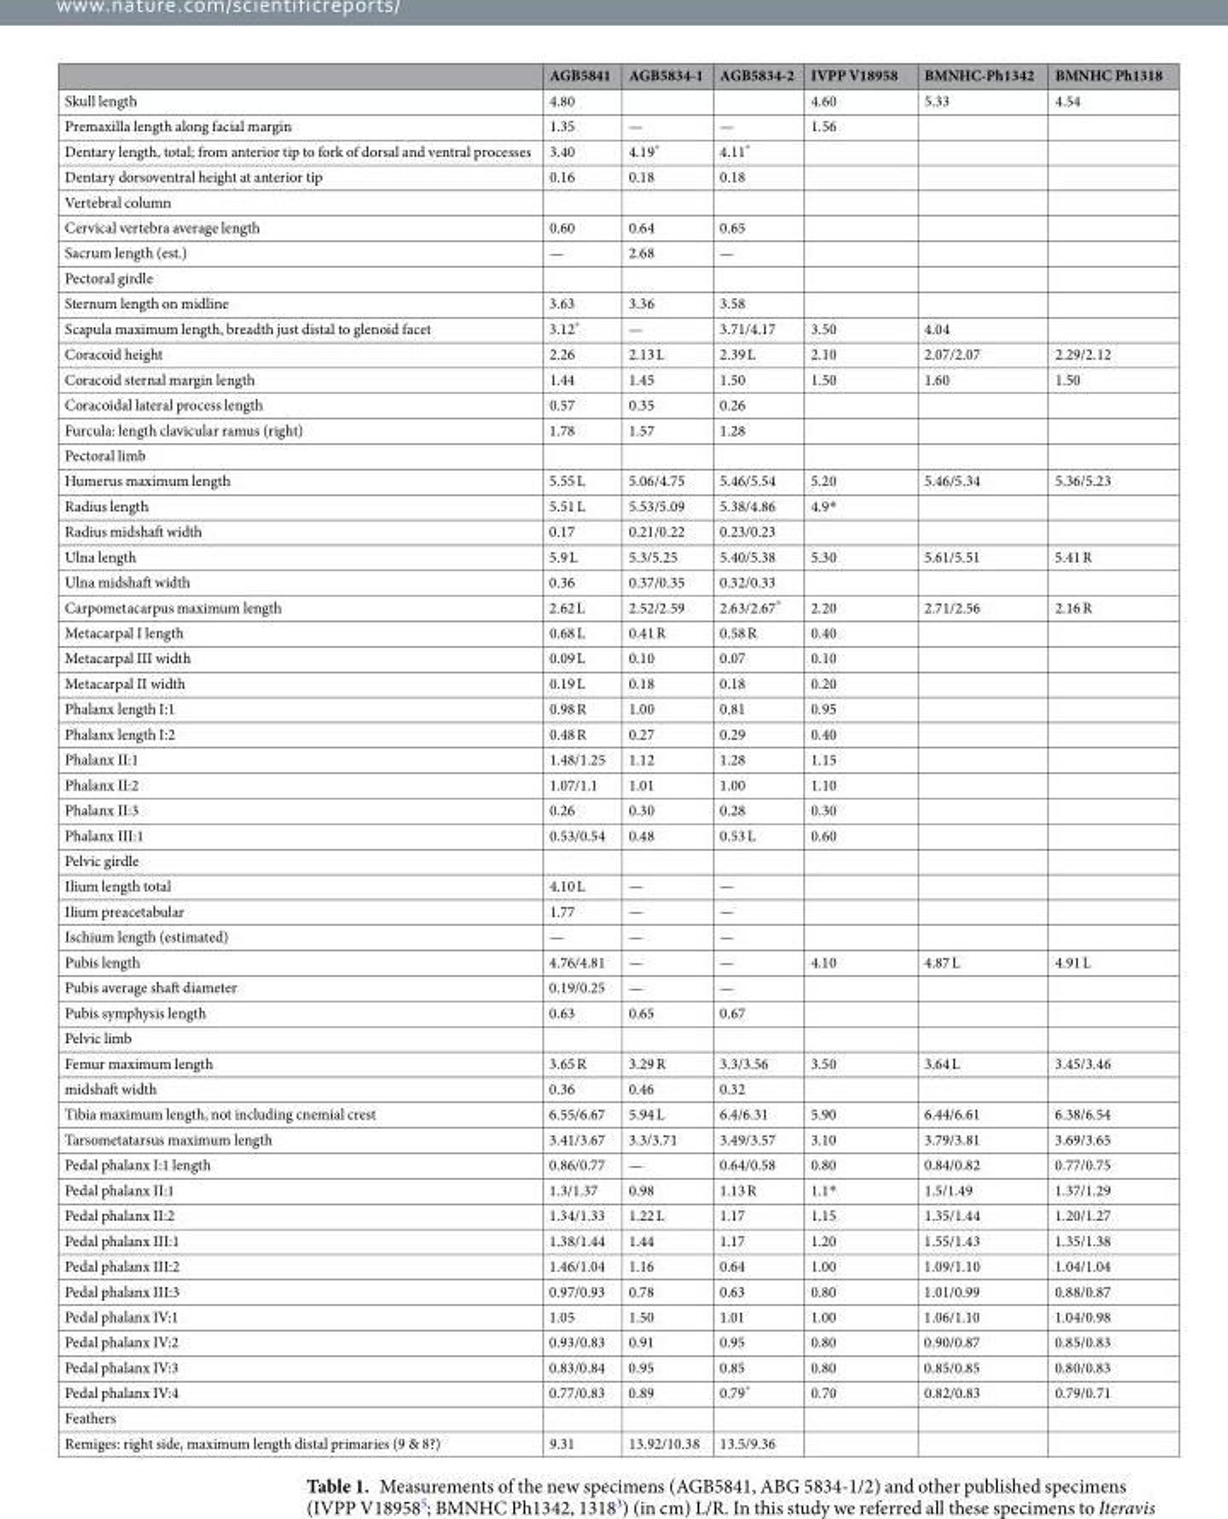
<table><thead><tr><td></td><td>AGB5841</td><td>AGB5834-1</td><td>AGB5834-2</td><td>IVPP V18958</td><td>BMNHC-Ph1342</td><td>BMNHC Ph1318</td></tr></thead><tbody><tr><td>Skull length</td><td>4.80</td><td></td><td></td><td>4.60</td><td>5.33</td><td>4.54</td></tr><tr><td>Premaxilla length along facial margin</td><td>1.35</td><td>—</td><td>—</td><td>1.56</td><td></td><td></td></tr><tr><td>Dentary length, total; from anterior tip to fork of dorsal and ventral processes</td><td>3.40</td><td>4.19*</td><td>4.11*</td><td></td><td></td><td></td></tr><tr><td>Dentary dorsoventral height at anterior tip</td><td>0.16</td><td>0.18</td><td>0.18</td><td></td><td></td><td></td></tr><tr><td colspan="7">Vertebral column</td></tr><tr><td>Cervical vertebra average length</td><td>0.60</td><td>0.64</td><td>0.65</td><td></td><td></td><td></td></tr><tr><td>Sacrum length (est.)</td><td>—</td><td>2.68</td><td>—</td><td></td><td></td><td></td></tr><tr><td colspan="7">Pectoral girdle</td></tr><tr><td>Sternum length on midline</td><td>3.63</td><td>3.36</td><td>3.58</td><td></td><td></td><td></td></tr><tr><td>Scapula maximum length, breadth just distal to glenoid facet</td><td>3.12*</td><td>—</td><td>3.71/4.17</td><td>3.50</td><td>4.04</td><td></td></tr><tr><td>Coracoid height</td><td>2.26</td><td>2.13 L</td><td>2.39 L</td><td>2.10</td><td>2.07/2.07</td><td>2.29/2.12</td></tr><tr><td>Coracoid sternal margin length</td><td>1.44</td><td>1.45</td><td>1.50</td><td>1.50</td><td>1.60</td><td>1.50</td></tr><tr><td>Coracoidal lateral process length</td><td>0.57</td><td>0.35</td><td>0.26</td><td></td><td></td><td></td></tr><tr><td>Furcula: length clavicular ramus (right)</td><td>1.78</td><td>1.57</td><td>1.28</td><td></td><td></td><td></td></tr><tr><td colspan="7">Pectoral limb</td></tr><tr><td>Humerus maximum length</td><td>5.55 L</td><td>5.06/4.75</td><td>5.46/5.54</td><td>5.20</td><td>5.46/5.34</td><td>5.36/5.23</td></tr><tr><td>Radius length</td><td>5.51 L</td><td>5.53/5.09</td><td>5.38/4.86</td><td>4.9*</td><td></td><td></td></tr><tr><td>Radius midshaft width</td><td>0.17</td><td>0.21/0.22</td><td>0.23/0.23</td><td></td><td></td><td></td></tr><tr><td>Ulna length</td><td>5.9 L</td><td>5.3/5.25</td><td>5.40/5.38</td><td>5.30</td><td>5.61/5.51</td><td>5.41 R</td></tr><tr><td>Ulna midshaft width</td><td>0.36</td><td>0.37/0.35</td><td>0.32/0.33</td><td></td><td></td><td></td></tr><tr><td>Carpometacarpus maximum length</td><td>2.62 L</td><td>2.52/2.59</td><td>2.63/2.67*</td><td>2.20</td><td>2.71/2.56</td><td>2.16 R</td></tr><tr><td>Metacarpal I length</td><td>0.68 L</td><td>0.41 R</td><td>0.58 R</td><td>0.40</td><td></td><td></td></tr><tr><td>Metacarpal III width</td><td>0.09 L</td><td>0.10</td><td>0.07</td><td>0.10</td><td></td><td></td></tr><tr><td>Metacarpal II width</td><td>0.19 L</td><td>0.18</td><td>0.18</td><td>0.20</td><td></td><td></td></tr><tr><td>Phalanx length I:1</td><td>0.98 R</td><td>1.00</td><td>0.81</td><td>0.95</td><td></td><td></td></tr><tr><td>Phalanx length I:2</td><td>0.48 R</td><td>0.27</td><td>0.29</td><td>0.40</td><td></td><td></td></tr><tr><td>Phalanx II:1</td><td>1.48/1.25</td><td>1.12</td><td>1.28</td><td>1.15</td><td></td><td></td></tr><tr><td>Phalanx II:2</td><td>1.07/1.1</td><td>1.01</td><td>1.00</td><td>1.10</td><td></td><td></td></tr><tr><td>Phalanx II:3</td><td>0.26</td><td>0.30</td><td>0.28</td><td>0.30</td><td></td><td></td></tr><tr><td>Phalanx III:1</td><td>0.53/0.54</td><td>0.48</td><td>0.53 L</td><td>0.60</td><td></td><td></td></tr><tr><td colspan="7">Pelvic girdle</td></tr><tr><td>Ilium length total</td><td>4.10 L</td><td>—</td><td>—</td><td></td><td></td><td></td></tr><tr><td>Ilium preacetabular</td><td>1.77</td><td>—</td><td>—</td><td></td><td></td><td></td></tr><tr><td>Ischium length (estimated)</td><td>—</td><td>—</td><td>—</td><td></td><td></td><td></td></tr><tr><td>Pubis length</td><td>4.76/4.81</td><td>—</td><td>—</td><td>4.10</td><td>4.87 L</td><td>4.91 L</td></tr><tr><td>Pubis average shaft diameter</td><td>0.19/0.25</td><td>—</td><td>—</td><td></td><td></td><td></td></tr><tr><td>Pubis symphysis length</td><td>0.63</td><td>0.65</td><td>0.67</td><td></td><td></td><td></td></tr><tr><td colspan="7">Pelvic limb</td></tr><tr><td>Femur maximum length</td><td>3.65 R</td><td>3.29 R</td><td>3.3/3.56</td><td>3.50</td><td>3.64 L</td><td>3.45/3.46</td></tr><tr><td>midshaft width</td><td>0.36</td><td>0.46</td><td>0.32</td><td></td><td></td><td></td></tr><tr><td>Tibia maximum length, not including cnemial crest</td><td>6.55/6.67</td><td>5.94 L</td><td>6.4/6.31</td><td>5.90</td><td>6.44/6.61</td><td>6.38/6.54</td></tr><tr><td>Tarsometatarsus maximum length</td><td>3.41/3.67</td><td>3.3/3.71</td><td>3.49/3.57</td><td>3.10</td><td>3.79/3.81</td><td>3.69/3.65</td></tr><tr><td>Pedal phalanx I:1 length</td><td>0.86/0.77</td><td>—</td><td>0.64/0.58</td><td>0.80</td><td>0.84/0.82</td><td>0.77/0.75</td></tr><tr><td>Pedal phalanx II:1</td><td>1.3/1.37</td><td>0.98</td><td>1.13 R</td><td>1.1*</td><td>1.5/1.49</td><td>1.37/1.29</td></tr><tr><td>Pedal phalanx II:2</td><td>1.34/1.33</td><td>1.22 L</td><td>1.17</td><td>1.15</td><td>1.35/1.44</td><td>1.20/1.27</td></tr><tr><td>Pedal phalanx III:1</td><td>1.38/1.44</td><td>1.44</td><td>1.17</td><td>1.20</td><td>1.55/1.43</td><td>1.35/1.38</td></tr><tr><td>Pedal phalanx III:2</td><td>1.46/1.04</td><td>1.16</td><td>0.64</td><td>1.00</td><td>1.09/1.10</td><td>1.04/1.04</td></tr><tr><td>Pedal phalanx III:3</td><td>0.97/0.93</td><td>0.78</td><td>0.63</td><td>0.80</td><td>1.01/0.99</td><td>0.88/0.87</td></tr><tr><td>Pedal phalanx IV:1</td><td>1.05</td><td>1.50</td><td>1.01</td><td>1.00</td><td>1.06/1.10</td><td>1.04/0.98</td></tr><tr><td>Pedal phalanx IV:2</td><td>0.93/0.83</td><td>0.91</td><td>0.95</td><td>0.80</td><td>0.90/0.87</td><td>0.85/0.83</td></tr><tr><td>Pedal phalanx IV:3</td><td>0.83/0.84</td><td>0.95</td><td>0.85</td><td>0.80</td><td>0.85/0.85</td><td>0.80/0.83</td></tr><tr><td>Pedal phalanx IV:4</td><td>0.77/0.83</td><td>0.89</td><td>0.79*</td><td>0.70</td><td>0.82/0.83</td><td>0.79/0.71</td></tr><tr><td colspan="7">Feathers</td></tr><tr><td>Remiges: right side, maximum length distal primaries (9 &amp; 8?)</td><td>9.31</td><td>13.92/10.38</td><td>13.5/9.36</td><td></td><td></td><td></td></tr></tbody></table>